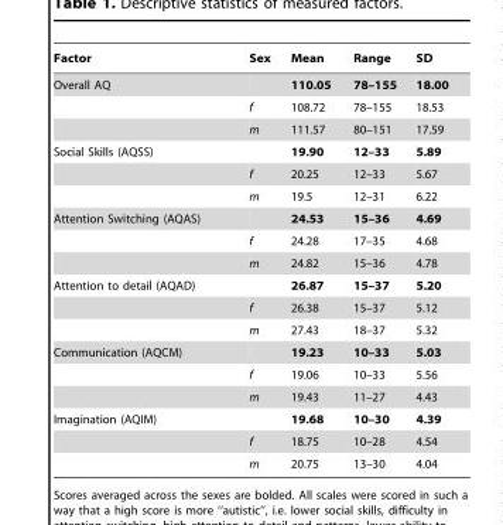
<table><thead><tr><td>Factor</td><td>Sex</td><td>Mean</td><td>Range</td><td>SD</td></tr></thead><tbody><tr><td rowspan="3">Overall AQ</td><td></td><td>110.05</td><td>78–155</td><td>18.00</td></tr><tr><td>f</td><td>108.72</td><td>78–155</td><td>18.53</td></tr><tr><td>m</td><td>111.57</td><td>80–151</td><td>17.59</td></tr><tr><td rowspan="3">Social Skills (AQSS)</td><td></td><td>19.90</td><td>12–33</td><td>5.89</td></tr><tr><td>f</td><td>20.25</td><td>12–33</td><td>5.67</td></tr><tr><td>m</td><td>19.5</td><td>12–31</td><td>6.22</td></tr><tr><td rowspan="3">Attention Switching (AQAS)</td><td></td><td>24.53</td><td>15–36</td><td>4.69</td></tr><tr><td>f</td><td>24.28</td><td>17–35</td><td>4.68</td></tr><tr><td>m</td><td>24.82</td><td>15–36</td><td>4.78</td></tr><tr><td rowspan="3">Attention to detail (AQAD)</td><td></td><td>26.87</td><td>15–37</td><td>5.20</td></tr><tr><td>f</td><td>26.38</td><td>15–37</td><td>5.12</td></tr><tr><td>m</td><td>27.43</td><td>18–37</td><td>5.32</td></tr><tr><td rowspan="3">Communication (AQCM)</td><td></td><td>19.23</td><td>10–33</td><td>5.03</td></tr><tr><td>f</td><td>19.06</td><td>10–33</td><td>5.56</td></tr><tr><td>m</td><td>19.43</td><td>11–27</td><td>4.43</td></tr><tr><td rowspan="3">Imagination (AQIM)</td><td></td><td>19.68</td><td>10–30</td><td>4.39</td></tr><tr><td>f</td><td>18.75</td><td>10–28</td><td>4.54</td></tr><tr><td>m</td><td>20.75</td><td>13–30</td><td>4.04</td></tr></tbody></table>